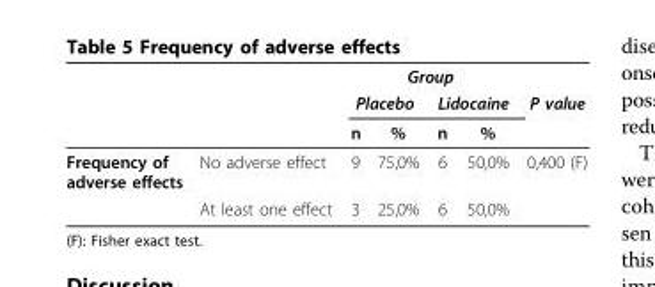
<table><thead><tr><td rowspan="3"></td><td rowspan="3"></td><td colspan="4">Group</td><td rowspan="3">P value</td></tr><tr><td colspan="2">Placebo</td><td colspan="2">Lidocaine</td></tr><tr><td>n</td><td>%</td><td>n</td><td>%</td></tr></thead><tbody><tr><td rowspan="2">Frequency of adverse effects</td><td>No adverse effect</td><td>9</td><td>75,0%</td><td>6</td><td>50,0%</td><td>0,400 (F)</td></tr><tr><td>At least one effect</td><td>3</td><td>25,0%</td><td>6</td><td>50,0%</td><td></td></tr></tbody></table>